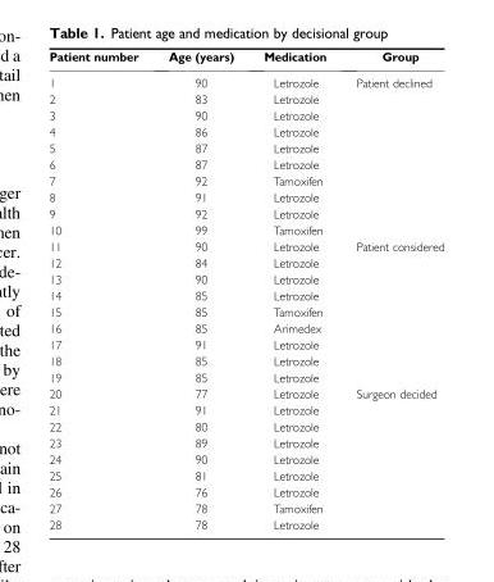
<table><thead><tr><td>Patient number</td><td>Age (years)</td><td>Medication</td><td>Group</td></tr></thead><tbody><tr><td>1</td><td>90</td><td>Letrozole</td><td rowspan="10">Patient declined</td></tr><tr><td>2</td><td>83</td><td>Letrozole</td></tr><tr><td>3</td><td>90</td><td>Letrozole</td></tr><tr><td>4</td><td>86</td><td>Letrozole</td></tr><tr><td>5</td><td>87</td><td>Letrozole</td></tr><tr><td>6</td><td>87</td><td>Letrozole</td></tr><tr><td>7</td><td>92</td><td>Tamoxifen</td></tr><tr><td>8</td><td>91</td><td>Letrozole</td></tr><tr><td>9</td><td>92</td><td>Letrozole</td></tr><tr><td>10</td><td>99</td><td>Tamoxifen</td></tr><tr><td>11</td><td>90</td><td>Letrozole</td><td rowspan="9">Patient considered</td></tr><tr><td>12</td><td>84</td><td>Letrozole</td></tr><tr><td>13</td><td>90</td><td>Letrozole</td></tr><tr><td>14</td><td>85</td><td>Letrozole</td></tr><tr><td>15</td><td>85</td><td>Tamoxifen</td></tr><tr><td>16</td><td>85</td><td>Arimedex</td></tr><tr><td>17</td><td>91</td><td>Letrozole</td></tr><tr><td>18</td><td>85</td><td>Letrozole</td></tr><tr><td>19</td><td>85</td><td>Letrozole</td></tr><tr><td>20</td><td>77</td><td>Letrozole</td><td rowspan="9">Surgeon decided</td></tr><tr><td>21</td><td>91</td><td>Letrozole</td></tr><tr><td>22</td><td>80</td><td>Letrozole</td></tr><tr><td>23</td><td>89</td><td>Letrozole</td></tr><tr><td>24</td><td>90</td><td>Letrozole</td></tr><tr><td>25</td><td>81</td><td>Letrozole</td></tr><tr><td>26</td><td>76</td><td>Letrozole</td></tr><tr><td>27</td><td>78</td><td>Tamoxifen</td></tr><tr><td>28</td><td>78</td><td>Letrozole</td></tr></tbody></table>